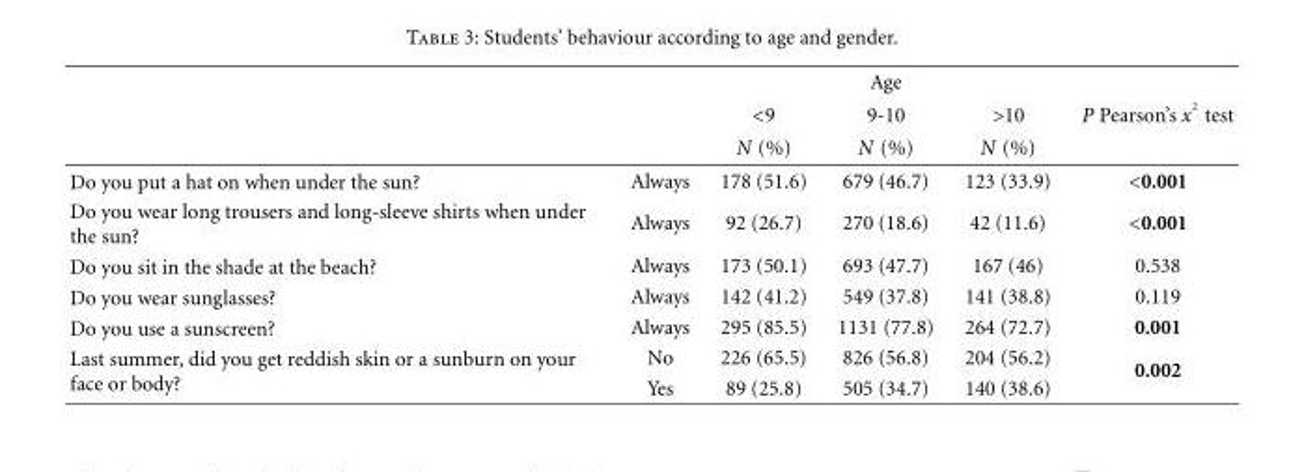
<table><thead><tr><td rowspan="3"></td><td rowspan="3"></td><td rowspan="3">&lt;9 N (%)</td><td rowspan="3">Age 9-10 N (%)</td><td rowspan="3">&gt;10 N (%)</td><td rowspan="3">P Pearson’s x <sup>2</sup> test</td></tr><tr></tr><tr></tr></thead><tbody><tr><td>Do you put a hat on when under the sun?</td><td>Always</td><td>178 (51.6)</td><td>679 (46.7)</td><td>123 (33.9)</td><td>&lt;0.001</td></tr><tr><td>Do you wear long trousers and long-sleeve shirts when under the sun?</td><td>Always</td><td>92 (26.7)</td><td>270 (18.6)</td><td>42 (11.6)</td><td>&lt;0.001</td></tr><tr><td>Do you sit in the shade at the beach?</td><td>Always</td><td>173 (50.1)</td><td>693 (47.7)</td><td>167 (46)</td><td>0.538</td></tr><tr><td>Do you wear sunglasses?</td><td>Always</td><td>142 (41.2)</td><td>549 (37.8)</td><td>141 (38.8)</td><td>0.119</td></tr><tr><td>Do you use a sunscreen?</td><td>Always</td><td>295 (85.5)</td><td>1131 (77.8)</td><td>264 (72.7)</td><td>0.001</td></tr><tr><td rowspan="2">Last summer, did you get reddish skin or a sunburn on your face or body?</td><td>No</td><td>226 (65.5)</td><td>826 (56.8)</td><td>204 (56.2)</td><td rowspan="2">0.002</td></tr><tr><td>Yes</td><td>89 (25.8)</td><td>505 (34.7)</td><td>140 (38.6)</td></tr></tbody></table>